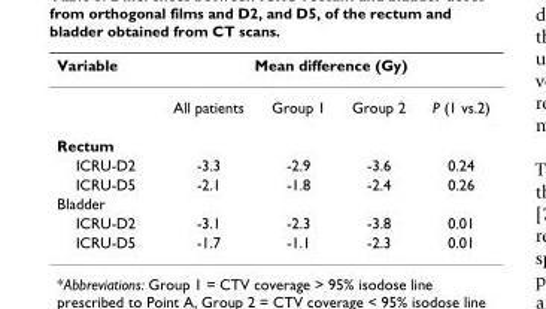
<table><thead><tr><td rowspan="2">Variable</td><td colspan="4">Mean difference (Gy)</td></tr><tr><td>All patients</td><td>Group 1</td><td>Group 2</td><td>P (1 vs.2)</td></tr></thead><tbody><tr><td colspan="5">Rectum</td></tr><tr><td>ICRU-D2</td><td>-3.3</td><td>-2.9</td><td>-3.6</td><td>0.24</td></tr><tr><td>ICRU-D5</td><td>-2.1</td><td>-1.8</td><td>-2.4</td><td>0.26</td></tr><tr><td colspan="5">Bladder</td></tr><tr><td>ICRU-D2</td><td>-3.1</td><td>-2.3</td><td>-3.8</td><td>0.01</td></tr><tr><td>ICRU-D5</td><td>-1.7</td><td>-1.1</td><td>-2.3</td><td>0.01</td></tr></tbody></table>